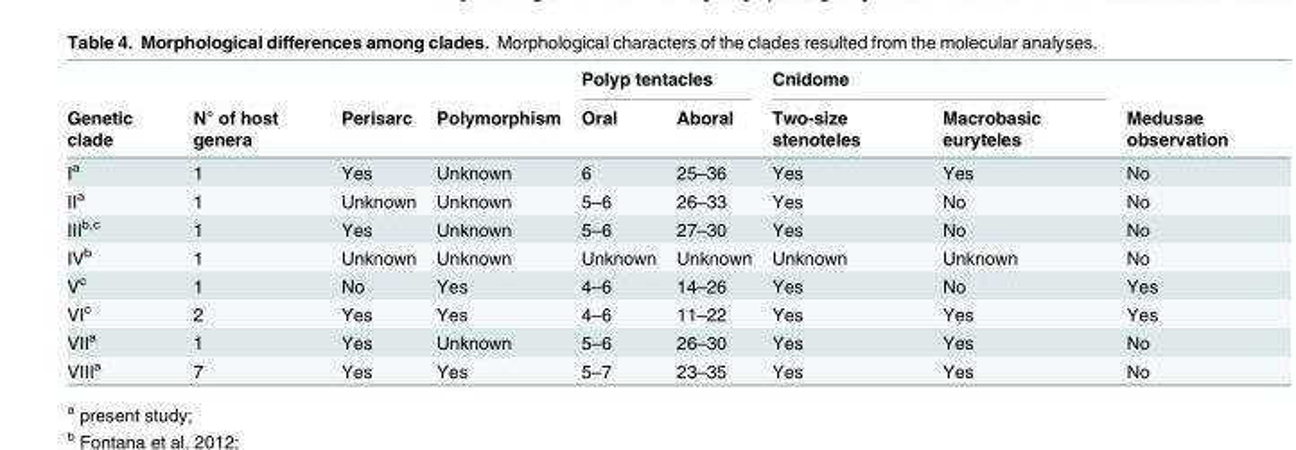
<table><thead><tr><td rowspan="2">Genetic clade</td><td rowspan="2">N° of host genera</td><td rowspan="2">Perisarc</td><td rowspan="2">Polymorphism</td><td colspan="2">Polyp tentacles</td><td colspan="2">Cnidome</td><td rowspan="2">Medusae observation</td></tr><tr><td>Oral</td><td>Aboral</td><td>Two-size stenoteles</td><td>Macrobasic euryteles</td></tr></thead><tbody><tr><td>I<sup>a</sup></td><td>1</td><td>Yes</td><td>Unknown</td><td>6</td><td>25–36</td><td>Yes</td><td>Yes</td><td>No</td></tr><tr><td>II<sup>a</sup></td><td>1</td><td>Unknown</td><td>Unknown</td><td>5–6</td><td>26–33</td><td>Yes</td><td>No</td><td>No</td></tr><tr><td>III<sup>b,c</sup></td><td>1</td><td>Yes</td><td>Unknown</td><td>5–6</td><td>27–30</td><td>Yes</td><td>No</td><td>No</td></tr><tr><td>IV<sup>b</sup></td><td>1</td><td>Unknown</td><td>Unknown</td><td>Unknown</td><td>Unknown</td><td>Unknown</td><td>Unknown</td><td>No</td></tr><tr><td>V<sup>c</sup></td><td>1</td><td>No</td><td>Yes</td><td>4–6</td><td>14–26</td><td>Yes</td><td>No</td><td>Yes</td></tr><tr><td>VI<sup>c</sup></td><td>2</td><td>Yes</td><td>Yes</td><td>4–6</td><td>11–22</td><td>Yes</td><td>Yes</td><td>Yes</td></tr><tr><td>VII<sup>a</sup></td><td>1</td><td>Yes</td><td>Unknown</td><td>5–6</td><td>26–30</td><td>Yes</td><td>Yes</td><td>No</td></tr><tr><td>VIII<sup>a</sup></td><td>7</td><td>Yes</td><td>Yes</td><td>5–7</td><td>23–35</td><td>Yes</td><td>Yes</td><td>No</td></tr></tbody></table>